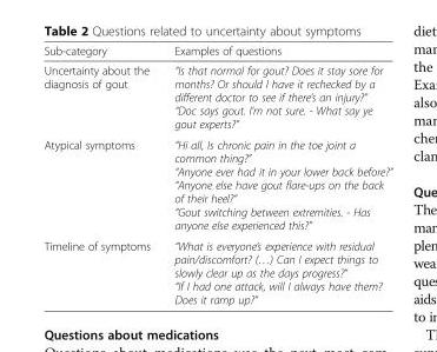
<table><thead><tr><td>Sub-category</td><td>Examples of questions</td></tr></thead><tbody><tr><td>Uncertainty about the diagnosis of gout</td><td>“Is that normal for gout? Does it stay sore for months? Or should I have it rechecked by a different doctor to see if there’s an injury?” “Doc says gout. I’m not sure. - What say ye gout experts?”</td></tr><tr><td>Atypical symptoms</td><td>“Hi all, Is chronic pain in the toe joint a common thing?” “Anyone ever had it in your lower back before?” “Anyone else have gout flare-ups on the back of their heel?” “Gout switching between extremities. - Has anyone else experienced this?”</td></tr><tr><td>Timeline of symptoms</td><td>“What is everyone’s experience with residual pain/discomfort? (…) Can I expect things to slowly clear up as the days progress?” “If I had one attack, will I always have them? Does it ramp up?”</td></tr></tbody></table>